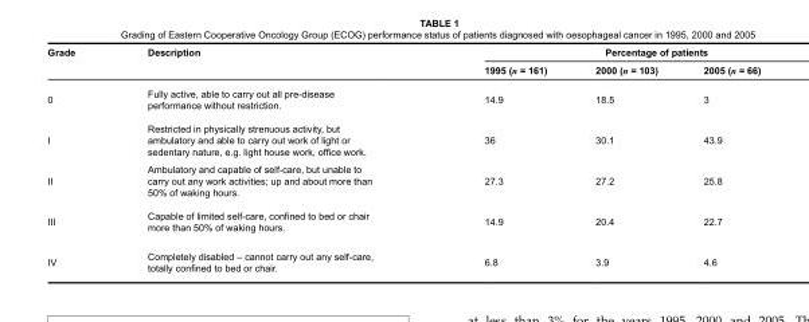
<table><thead><tr><td rowspan="2">Grade</td><td rowspan="2">Description</td><td colspan="3">Percentage of patients</td></tr><tr><td>1995 (n = 161)</td><td>2000 (n = 103)</td><td>2005 (n = 66)</td></tr></thead><tbody><tr><td>0</td><td>Fully active, able to carry out all pre-disease performance without restriction.</td><td>14.9</td><td>18.5</td><td>3</td></tr><tr><td>I</td><td>Restricted in physically strenuous activity, but ambulatory and able to carry out work of light or sedentary nature, e.g. light house work, office work.</td><td>36</td><td>30.1</td><td>43.9</td></tr><tr><td>II</td><td>Ambulatory and capable of self-care, but unable to carry out any work activities; up and about more than 50% of waking hours.</td><td>27.3</td><td>27.2</td><td>25.8</td></tr><tr><td>III</td><td>Capable of limited self-care, confined to bed or chair more than 50% of waking hours.</td><td>14.9</td><td>20.4</td><td>22.7</td></tr><tr><td>IV</td><td>Completely disabled – cannot carry out any self-care, totally confined to bed or chair.</td><td>6.8</td><td>3.9</td><td>4.6</td></tr></tbody></table>